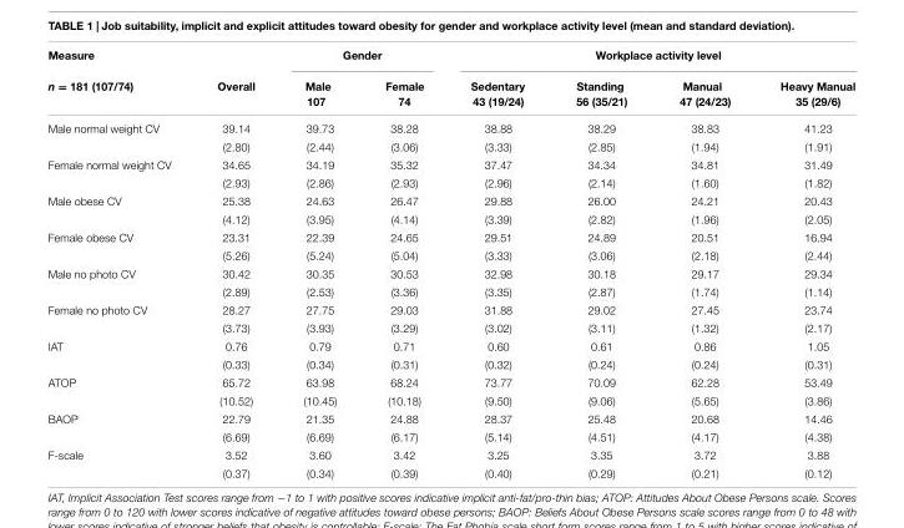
<table><thead><tr><td rowspan="2">Measure n = 181 (107/74)</td><td rowspan="2">Overall</td><td colspan="2">Gender</td><td colspan="4">Workplace activity level</td></tr><tr><td>Male 107</td><td>Female 74</td><td>Sedentary 43 (19/24)</td><td>Standing 56 (35/21)</td><td>Manual 47 (24/23)</td><td>Heavy Manual 35 (29/6)</td></tr></thead><tbody><tr><td rowspan="2">Male normal weight CV</td><td>39.14</td><td>39.73</td><td>38.28</td><td>38.88</td><td>38.29</td><td>38.83</td><td>41.23</td></tr><tr><td>(2.80)</td><td>(2.44)</td><td>(3.06)</td><td>(3.33)</td><td>(2.85)</td><td>(1.94)</td><td>(1.91)</td></tr><tr><td rowspan="2">Female normal weight CV</td><td>34.65</td><td>34.19</td><td>35.32</td><td>37.47</td><td>34.34</td><td>34.81</td><td>31.49</td></tr><tr><td>(2.93)</td><td>(2.86)</td><td>(2.93)</td><td>(2.96)</td><td>(2.14)</td><td>(1.60)</td><td>(1.82)</td></tr><tr><td rowspan="2">Male obese CV</td><td>25.38</td><td>24.63</td><td>26.47</td><td>29.88</td><td>26.00</td><td>24.21</td><td>20.43</td></tr><tr><td>(4.12)</td><td>(3.95)</td><td>(4.14)</td><td>(3.39)</td><td>(2.82)</td><td>(1.96)</td><td>(2.05)</td></tr><tr><td rowspan="2">Female obese CV</td><td>23.31</td><td>22.39</td><td>24.65</td><td>29.51</td><td>24.89</td><td>20.51</td><td>16.94</td></tr><tr><td>(5.26)</td><td>(5.24)</td><td>(5.04)</td><td>(3.33)</td><td>(3.06)</td><td>(2.18)</td><td>(2.44)</td></tr><tr><td rowspan="2">Male no photo CV</td><td>30.42</td><td>30.35</td><td>30.53</td><td>32.98</td><td>30.18</td><td>29.17</td><td>29.34</td></tr><tr><td>(2.89)</td><td>(2.53)</td><td>(3.36)</td><td>(3.35)</td><td>(2.87)</td><td>(1.74)</td><td>(1.14)</td></tr><tr><td rowspan="2">Female no photo CV</td><td>28.27</td><td>27.75</td><td>29.03</td><td>31.88</td><td>29.02</td><td>27.45</td><td>23.74</td></tr><tr><td>(3.73)</td><td>(3.93)</td><td>(3.29)</td><td>(3.02)</td><td>(3.11)</td><td>(1.32)</td><td>(2.17)</td></tr><tr><td rowspan="2">IAT</td><td>0.76</td><td>0.79</td><td>0.71</td><td>0.60</td><td>0.61</td><td>0.86</td><td>1.05</td></tr><tr><td>(0.33)</td><td>(0.34)</td><td>(0.31)</td><td>(0.32)</td><td>(0.24)</td><td>(0.24)</td><td>(0.31)</td></tr><tr><td rowspan="2">ATOP</td><td>65.72</td><td>63.98</td><td>68.24</td><td>73.77</td><td>70.09</td><td>62.28</td><td>53.49</td></tr><tr><td>(10.52)</td><td>(10.45)</td><td>(10.18)</td><td>(9.50)</td><td>(9.06)</td><td>(5.65)</td><td>(3.86)</td></tr><tr><td rowspan="2">BAOP</td><td>22.79</td><td>21.35</td><td>24.88</td><td>28.37</td><td>25.48</td><td>20.68</td><td>14.46</td></tr><tr><td>(6.69)</td><td>(6.69)</td><td>(6.17)</td><td>(5.14)</td><td>(4.51)</td><td>(4.17)</td><td>(4.38)</td></tr><tr><td rowspan="2">F-scale</td><td>3.52</td><td>3.60</td><td>3.42</td><td>3.25</td><td>3.35</td><td>3.72</td><td>3.88</td></tr><tr><td>(0.37)</td><td>(0.34)</td><td>(0.39)</td><td>(0.40)</td><td>(0.29)</td><td>(0.21)</td><td>(0.12)</td></tr></tbody></table>